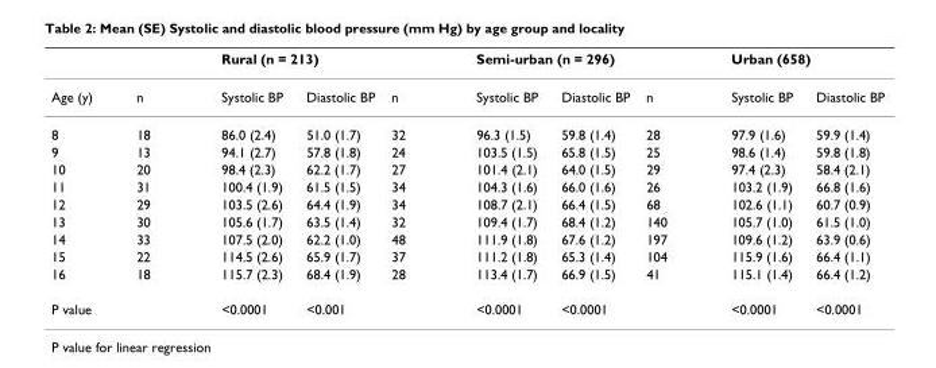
<table><thead><tr><td rowspan="2">Age (y)</td><td rowspan="2">n</td><td colspan="2">Rural (n = 213)</td><td rowspan="2">n</td><td colspan="2">Semi-urban (n = 296)</td><td rowspan="2">n</td><td colspan="2">Urban (658)</td></tr><tr><td>Systolic BP</td><td>Diastolic BP</td><td>Systolic BP</td><td>Diastolic BP</td><td>Systolic BP</td><td>Diastolic BP</td></tr></thead><tbody><tr><td>8</td><td>18</td><td>86.0 (2.4)</td><td>51.0 (1.7)</td><td>32</td><td>96.3 (1.5)</td><td>59.8 (1.4)</td><td>28</td><td>97.9 (1.6)</td><td>59.9 (1.4)</td></tr><tr><td>9</td><td>13</td><td>94.1 (2.7)</td><td>57.8 (1.8)</td><td>24</td><td>103.5 (1.5)</td><td>65.8 (1.5)</td><td>25</td><td>98.6 (1.4)</td><td>59.8 (1.8)</td></tr><tr><td>10</td><td>20</td><td>98.4 (2.3)</td><td>62.2 (1.7)</td><td>27</td><td>101.4 (2.1)</td><td>64.0 (1.5)</td><td>29</td><td>97.4 (2.3)</td><td>58.4 (2.1)</td></tr><tr><td>11</td><td>31</td><td>100.4 (1.9)</td><td>61.5 (1.5)</td><td>34</td><td>104.3 (1.6)</td><td>66.0 (1.6)</td><td>26</td><td>103.2 (1.9)</td><td>66.8 (1.6)</td></tr><tr><td>12</td><td>29</td><td>103.5 (2.6)</td><td>64.4 (1.9)</td><td>34</td><td>108.7 (2.1)</td><td>66.4 (1.5)</td><td>68</td><td>102.6 (1.1)</td><td>60.7 (0.9)</td></tr><tr><td>13</td><td>30</td><td>105.6 (1.7)</td><td>63.5 (1.4)</td><td>32</td><td>109.4 (1.7)</td><td>68.4 (1.2)</td><td>140</td><td>105.7 (1.0)</td><td>61.5 (1.0)</td></tr><tr><td>14</td><td>33</td><td>107.5 (2.0)</td><td>62.2 (1.0)</td><td>48</td><td>111.9 (1.8)</td><td>67.6 (1.2)</td><td>197</td><td>109.6 (1.2)</td><td>63.9 (0.6)</td></tr><tr><td>15</td><td>22</td><td>114.5 (2.6)</td><td>65.9 (1.7)</td><td>37</td><td>111.2 (1.8)</td><td>65.3 (1.4)</td><td>104</td><td>115.9 (1.6)</td><td>66.4 (1.1)</td></tr><tr><td>16</td><td>18</td><td>115.7 (2.3)</td><td>68.4 (1.9)</td><td>28</td><td>113.4 (1.7)</td><td>66.9 (1.5)</td><td>41</td><td>115.1 (1.4)</td><td>66.4 (1.2)</td></tr><tr><td>P value</td><td></td><td>&lt;0.0001</td><td>&lt;0.001</td><td></td><td>&lt;0.0001</td><td>&lt;0.0001</td><td></td><td>&lt;0.0001</td><td>&lt;0.0001</td></tr></tbody></table>